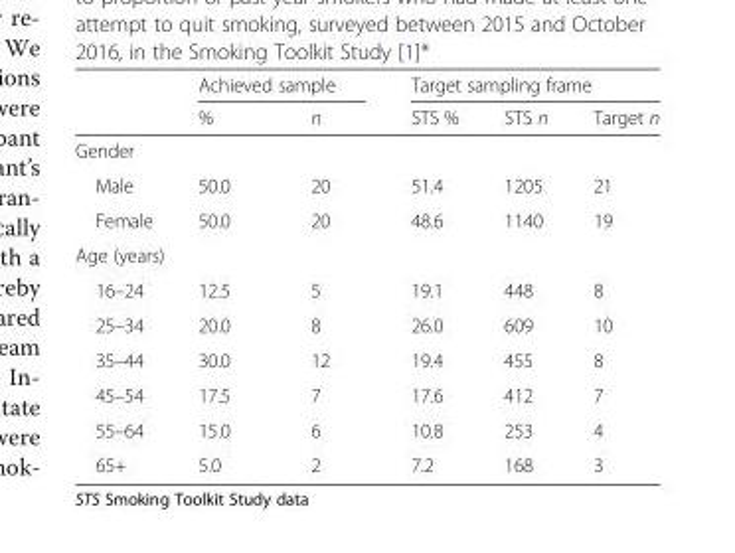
<table><thead><tr><td rowspan="2"></td><td colspan="2">Achieved sample</td><td colspan="3">Target sampling frame</td></tr><tr><td>%</td><td>n</td><td>STS %</td><td>STS n</td><td>Target n</td></tr></thead><tbody><tr><td colspan="6">Gender</td></tr><tr><td>Male</td><td>50.0</td><td>20</td><td>51.4</td><td>1205</td><td>21</td></tr><tr><td>Female</td><td>50.0</td><td>20</td><td>48.6</td><td>1140</td><td>19</td></tr><tr><td colspan="6">Age (years)</td></tr><tr><td>16–24</td><td>12.5</td><td>5</td><td>19.1</td><td>448</td><td>8</td></tr><tr><td>25–34</td><td>20.0</td><td>8</td><td>26.0</td><td>609</td><td>10</td></tr><tr><td>35–44</td><td>30.0</td><td>12</td><td>19.4</td><td>455</td><td>8</td></tr><tr><td>45–54</td><td>17.5</td><td>7</td><td>17.6</td><td>412</td><td>7</td></tr><tr><td>55–64</td><td>15.0</td><td>6</td><td>10.8</td><td>253</td><td>4</td></tr><tr><td>65+</td><td>5.0</td><td>2</td><td>7.2</td><td>168</td><td>3</td></tr></tbody></table>